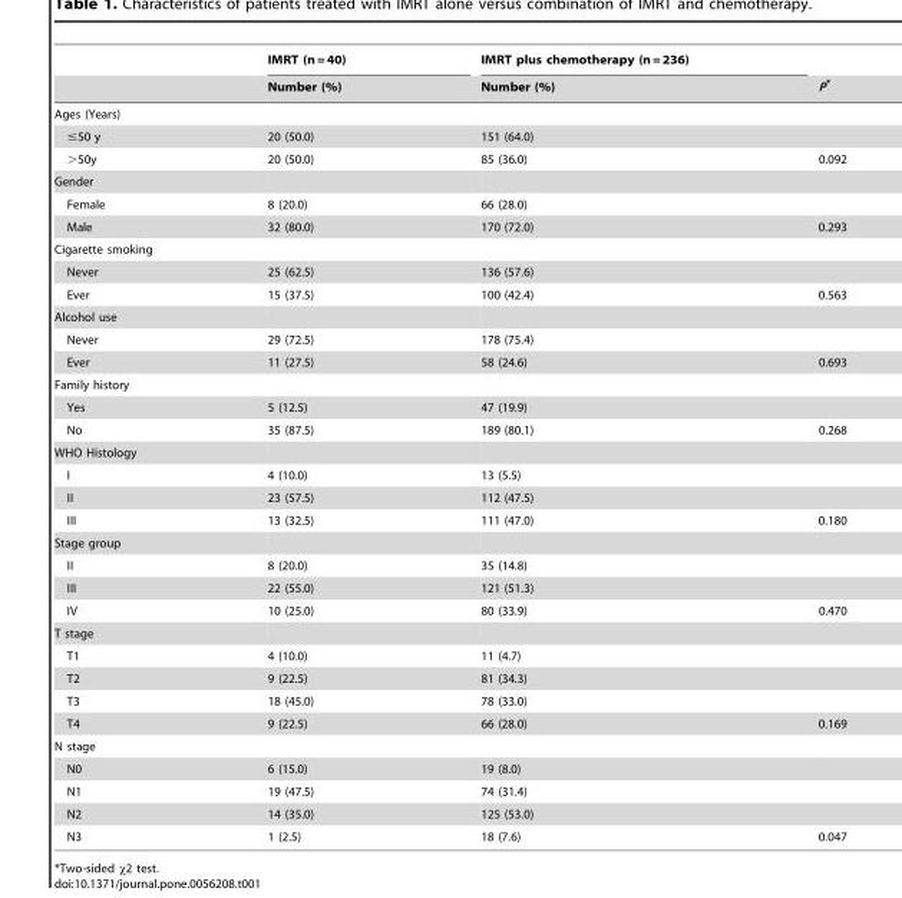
<table><thead><tr><td rowspan="2"></td><td rowspan="2">IMRT (n = 40) Number (%)</td><td rowspan="2">IMRT plus chemotherapy (n = 236) Number (%)</td><td rowspan="2">P*</td></tr><tr></tr></thead><tbody><tr><td colspan="4">Ages (Years)</td></tr><tr><td>≤50 y</td><td>20 (50.0)</td><td>151 (64.0)</td><td></td></tr><tr><td>&gt;50y</td><td>20 (50.0)</td><td>85 (36.0)</td><td>0.092</td></tr><tr><td colspan="4">Gender</td></tr><tr><td>Female</td><td>8 (20.0)</td><td>66 (28.0)</td><td></td></tr><tr><td>Male</td><td>32 (80.0)</td><td>170 (72.0)</td><td>0.293</td></tr><tr><td colspan="4">Cigarette smoking</td></tr><tr><td>Never</td><td>25 (62.5)</td><td>136 (57.6)</td><td></td></tr><tr><td>Ever</td><td>15 (37.5)</td><td>100 (42.4)</td><td>0.563</td></tr><tr><td colspan="4">Alcohol use</td></tr><tr><td>Never</td><td>29 (72.5)</td><td>178 (75.4)</td><td></td></tr><tr><td>Ever</td><td>11 (27.5)</td><td>58 (24.6)</td><td>0.693</td></tr><tr><td colspan="4">Family history</td></tr><tr><td>Yes</td><td>5 (12.5)</td><td>47 (19.9)</td><td></td></tr><tr><td>No</td><td>35 (87.5)</td><td>189 (80.1)</td><td>0.268</td></tr><tr><td colspan="4">WHO Histology</td></tr><tr><td>I</td><td>4 (10.0)</td><td>13 (5.5)</td><td></td></tr><tr><td>II</td><td>23 (57.5)</td><td>112 (47.5)</td><td></td></tr><tr><td>III</td><td>13 (32.5)</td><td>111 (47.0)</td><td>0.180</td></tr><tr><td colspan="4">Stage group</td></tr><tr><td>II</td><td>8 (20.0)</td><td>35 (14.8)</td><td></td></tr><tr><td>III</td><td>22 (55.0)</td><td>121 (51.3)</td><td></td></tr><tr><td>IV</td><td>10 (25.0)</td><td>80 (33.9)</td><td>0.470</td></tr><tr><td colspan="4">T stage</td></tr><tr><td>T1</td><td>4 (10.0)</td><td>11 (4.7)</td><td></td></tr><tr><td>T2</td><td>9 (22.5)</td><td>81 (34.3)</td><td></td></tr><tr><td>T3</td><td>18 (45.0)</td><td>78 (33.0)</td><td></td></tr><tr><td>T4</td><td>9 (22.5)</td><td>66 (28.0)</td><td>0.169</td></tr><tr><td colspan="4">N stage</td></tr><tr><td>N0</td><td>6 (15.0)</td><td>19 (8.0)</td><td></td></tr><tr><td>N1</td><td>19 (47.5)</td><td>74 (31.4)</td><td></td></tr><tr><td>N2</td><td>14 (35.0)</td><td>125 (53.0)</td><td></td></tr><tr><td>N3</td><td>1 (2.5)</td><td>18 (7.6)</td><td>0.047</td></tr></tbody></table>